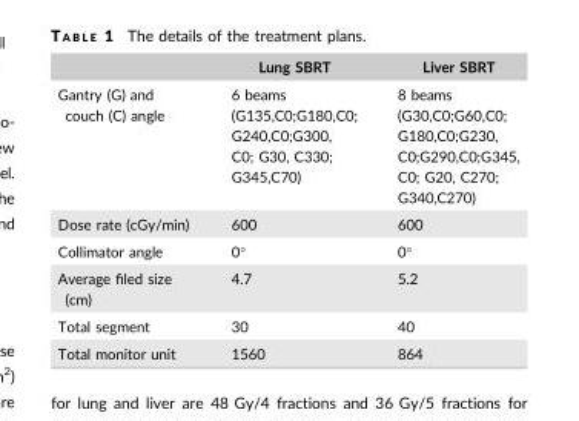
<table><thead><tr><td></td><td>Lung SBRT</td><td>Liver SBRT</td></tr></thead><tbody><tr><td>Gantry (G) and couch (C) angle</td><td>6 beams (G135,C0;G180,C0; G240,C0;G300, C0; G30, C330; G345,C70)</td><td>8 beams (G30,C0;G60,C0; G180,C0;G230, C0;G290,C0;G345, C0; G20, C270; G340,C270)</td></tr><tr><td>Dose rate (cGy/min)</td><td>600</td><td>600</td></tr><tr><td>Collimator angle</td><td>0°</td><td>0°</td></tr><tr><td>Average filed size (cm)</td><td>4.7</td><td>5.2</td></tr><tr><td>Total segment</td><td>30</td><td>40</td></tr><tr><td>Total monitor unit</td><td>1560</td><td>864</td></tr></tbody></table>